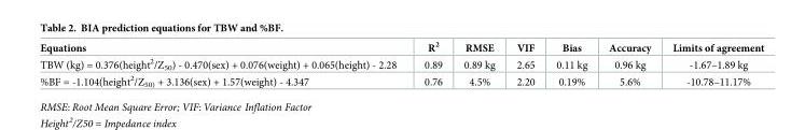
<table><thead><tr><td>Equations</td><td>R<sup>2</sup></td><td>RMSE</td><td>VIF</td><td>Bias</td><td>Accuracy</td><td>Limits of agreement</td></tr></thead><tbody><tr><td>TBW (kg) = 0.376(height<sup>2</sup>/Z<sub>50</sub>) - 0.470(sex) + 0.076(weight) + 0.065(height) - 2.28</td><td>0.89</td><td>0.89 kg</td><td>2.65</td><td>0.11 kg</td><td>0.96 kg</td><td>-1.67–1.89 kg</td></tr><tr><td>%BF = -1.104(height<sup>2</sup>/Z<sub>50)</sub> + 3.136(sex) + 1.57(weight) - 4.347</td><td>0.76</td><td>4.5%</td><td>2.20</td><td>0.19%</td><td>5.6%</td><td>-10.78–11.17%</td></tr></tbody></table>